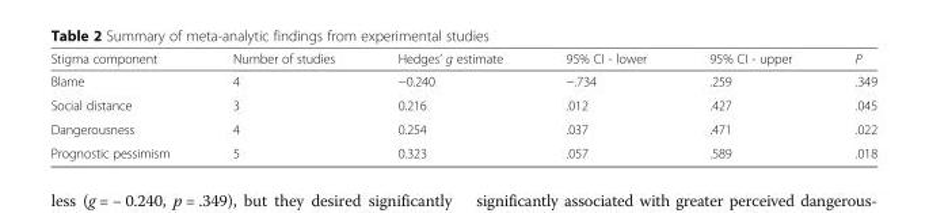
<table><thead><tr><td>Stigma component</td><td>Number of studies</td><td>Hedges’ g estimate</td><td>95% CI - lower</td><td>95% CI - upper</td><td>P</td></tr></thead><tbody><tr><td>Blame</td><td>4</td><td>−0.240</td><td>−.734</td><td>.259</td><td>.349</td></tr><tr><td>Social distance</td><td>3</td><td>0.216</td><td>.012</td><td>.427</td><td>.045</td></tr><tr><td>Dangerousness</td><td>4</td><td>0.254</td><td>.037</td><td>.471</td><td>.022</td></tr><tr><td>Prognostic pessimism</td><td>5</td><td>0.323</td><td>.057</td><td>.589</td><td>.018</td></tr></tbody></table>